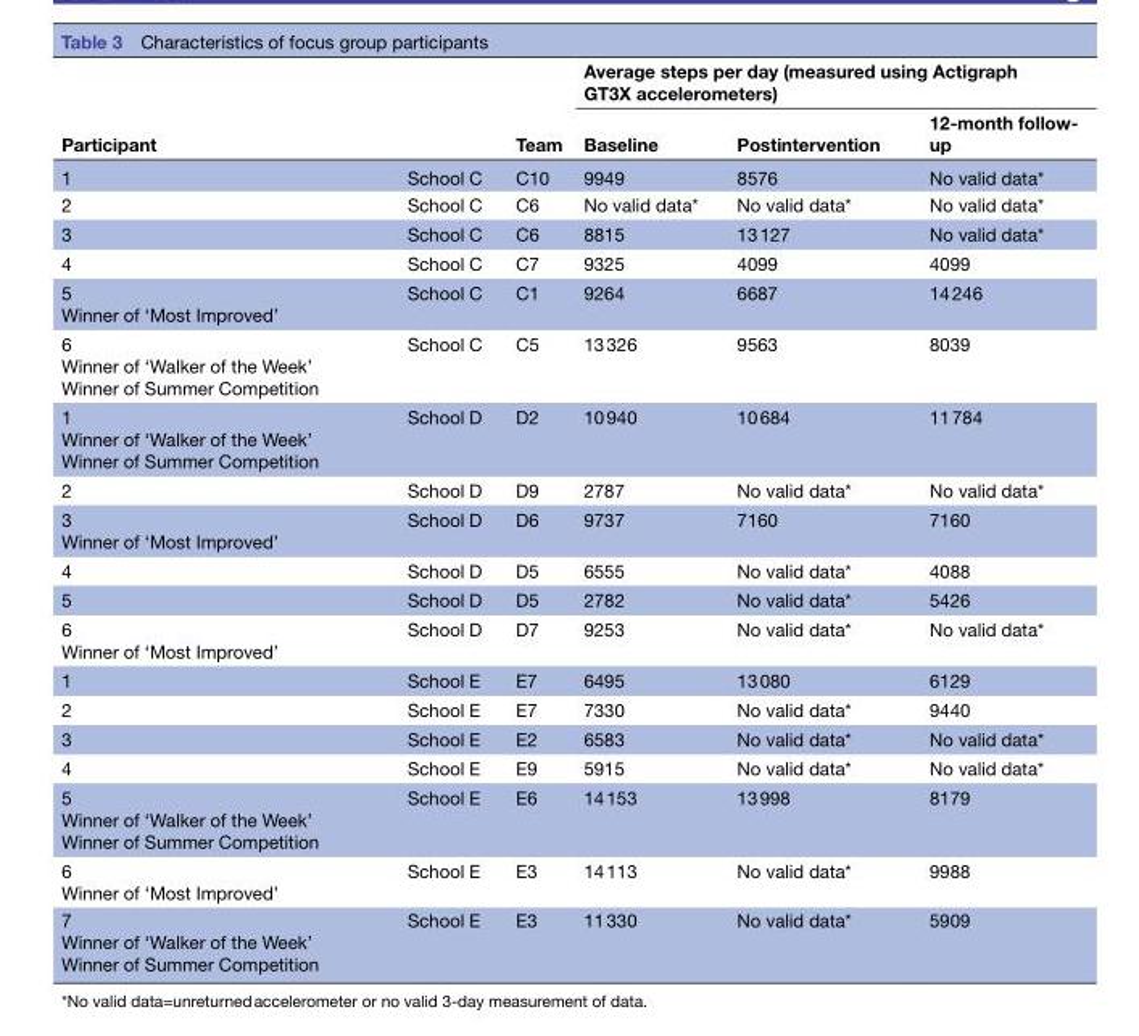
<table><thead><tr><td rowspan="2">Participant</td><td rowspan="2"></td><td rowspan="2">Team</td><td colspan="3">Average steps per day (measured using Actigraph GT3X accelerometers)</td></tr><tr><td>Baseline</td><td>Postintervention</td><td>12-month follow- up</td></tr></thead><tbody><tr><td>1</td><td>School C</td><td>C10</td><td>9949</td><td>8576</td><td>No valid data*</td></tr><tr><td>2</td><td>School C</td><td>C6</td><td>No valid data*</td><td>No valid data*</td><td>No valid data*</td></tr><tr><td>3</td><td>School C</td><td>C6</td><td>8815</td><td>13 127</td><td>No valid data*</td></tr><tr><td>4</td><td>School C</td><td>C7</td><td>9325</td><td>4099</td><td>4099</td></tr><tr><td>5 Winner of ‘Most Improved’</td><td>School C</td><td>C1</td><td>9264</td><td>6687</td><td>14 246</td></tr><tr><td>6 Winner of ‘Walker of the Week’ Winner of Summer Competition</td><td>School C</td><td>C5</td><td>13 326</td><td>9563</td><td>8039</td></tr><tr><td>1 Winner of ‘Walker of the Week’ Winner of Summer Competition</td><td>School D</td><td>D2</td><td>10 940</td><td>10 684</td><td>11 784</td></tr><tr><td>2</td><td>School D</td><td>D9</td><td>2787</td><td>No valid data*</td><td>No valid data*</td></tr><tr><td>3 Winner of ‘Most Improved’</td><td>School D</td><td>D6</td><td>9737</td><td>7160</td><td>7160</td></tr><tr><td>4</td><td>School D</td><td>D5</td><td>6555</td><td>No valid data*</td><td>4088</td></tr><tr><td>5</td><td>School D</td><td>D5</td><td>2782</td><td>No valid data*</td><td>5426</td></tr><tr><td>6 Winner of ‘Most Improved’</td><td>School D</td><td>D7</td><td>9253</td><td>No valid data*</td><td>No valid data*</td></tr><tr><td>1</td><td>School E</td><td>E7</td><td>6495</td><td>13 080</td><td>6129</td></tr><tr><td>2</td><td>School E</td><td>E7</td><td>7330</td><td>No valid data*</td><td>9440</td></tr><tr><td>3</td><td>School E</td><td>E2</td><td>6583</td><td>No valid data*</td><td>No valid data*</td></tr><tr><td>4</td><td>School E</td><td>E9</td><td>5915</td><td>No valid data*</td><td>No valid data*</td></tr><tr><td>5 Winner of ‘Walker of the Week’ Winner of Summer Competition</td><td>School E</td><td>E6</td><td>14 153</td><td>13 998</td><td>8179</td></tr><tr><td>6 Winner of ‘Most Improved’</td><td>School E</td><td>E3</td><td>14 113</td><td>No valid data*</td><td>9988</td></tr><tr><td>7 Winner of ‘Walker of the Week’ Winner of Summer Competition</td><td>School E</td><td>E3</td><td>11 330</td><td>No valid data*</td><td>5909</td></tr></tbody></table>